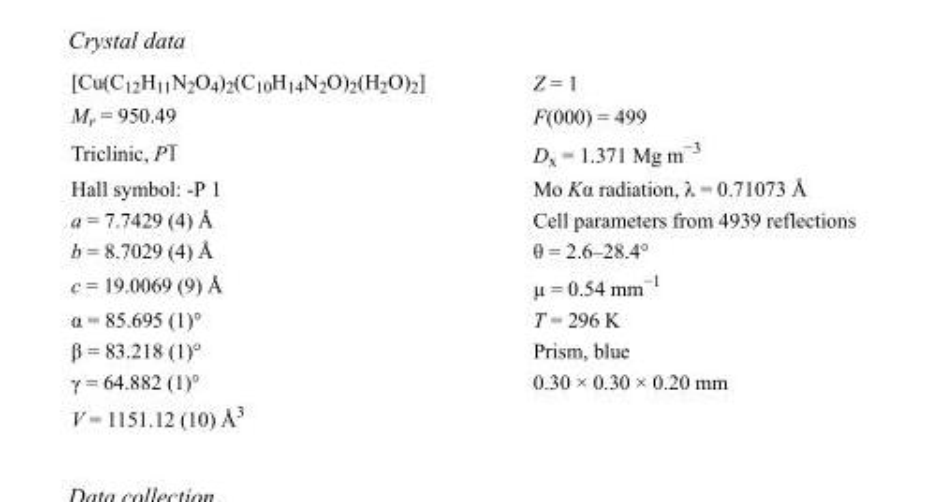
<table><tbody><tr><td>[Cu(C<sub>12</sub>H<sub>11</sub>N<sub>2</sub>O<sub>4</sub>)<sub>2</sub>(C<sub>10</sub>H<sub>14</sub>N<sub>2</sub>O)<sub>2</sub>(H<sub>2</sub>O)<sub>2</sub>]</td><td>Z = 1</td></tr><tr><td>M<sub>r</sub> = 950.49</td><td>F(000) = 499</td></tr><tr><td>Triclinic, P1</td><td>D<sub>x</sub> = 1.371 Mg m<sup>−3</sup></td></tr><tr><td>Hall symbol: -P 1</td><td>Mo Kα radiation, λ = 0.71073 Å</td></tr><tr><td>a = 7.7429 (4) Å</td><td>Cell parameters from 4939 reflections</td></tr><tr><td>b = 8.7029 (4) Å</td><td>θ = 2.6–28.4°</td></tr><tr><td>c = 19.0069 (9) Å</td><td>µ = 0.54 mm<sup>−1</sup></td></tr><tr><td>α = 85.695 (1)°</td><td>T = 296 K</td></tr><tr><td>β = 83.218 (1)°</td><td>Prism, blue</td></tr><tr><td>γ = 64.882 (1)°</td><td>0.30 × 0.30 × 0.20 mm</td></tr><tr><td>V = 1151.12 (10) Å<sup>3</sup></td><td></td></tr></tbody></table>